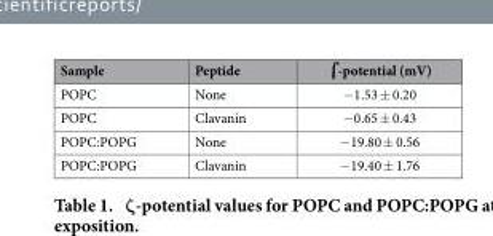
<table><thead><tr><td>Sample</td><td>Peptide</td><td>⌠-potential (mV)</td></tr></thead><tbody><tr><td>POPC</td><td>None</td><td>− 1.53 ± 0.20</td></tr><tr><td>POPC</td><td>Clavanin</td><td>− 0.65 ± 0.43</td></tr><tr><td>POPC:POPG</td><td>None</td><td>− 19.80 ± 0.56</td></tr><tr><td>POPC:POPG</td><td>Clavanin</td><td>− 19.40 ± 1.76</td></tr></tbody></table>